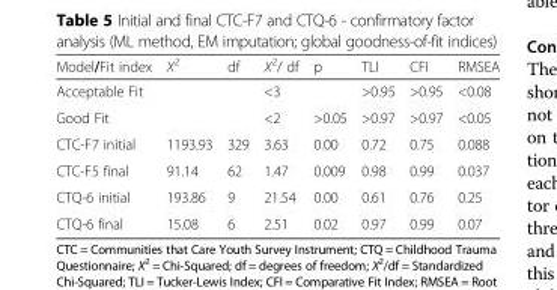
<table><thead><tr><td>Model/Fit index</td><td>Χ<sup>2</sup></td><td>df</td><td>Χ<sup>2</sup>/ df</td><td>p</td><td>TLI</td><td>CFI</td><td>RMSEA</td></tr></thead><tbody><tr><td>Acceptable Fit</td><td></td><td></td><td>&lt;3</td><td></td><td>&gt;0.95</td><td>&gt;0.95</td><td>&lt;0.08</td></tr><tr><td>Good Fit</td><td></td><td></td><td>&lt;2</td><td>&gt;0.05</td><td>&gt;0.97</td><td>&gt;0.97</td><td>&lt;0.05</td></tr><tr><td>CTC-F7 initial</td><td>1193.93</td><td>329</td><td>3.63</td><td>0.00</td><td>0.72</td><td>0.75</td><td>0.088</td></tr><tr><td>CTC-F5 final</td><td>91.14</td><td>62</td><td>1.47</td><td>0.009</td><td>0.98</td><td>0.99</td><td>0.037</td></tr><tr><td>CTQ-6 initial</td><td>193.86</td><td>9</td><td>21.54</td><td>0.00</td><td>0.61</td><td>0.76</td><td>0.25</td></tr><tr><td>CTQ-6 final</td><td>15.08</td><td>6</td><td>2.51</td><td>0.02</td><td>0.97</td><td>0.99</td><td>0.07</td></tr></tbody></table>